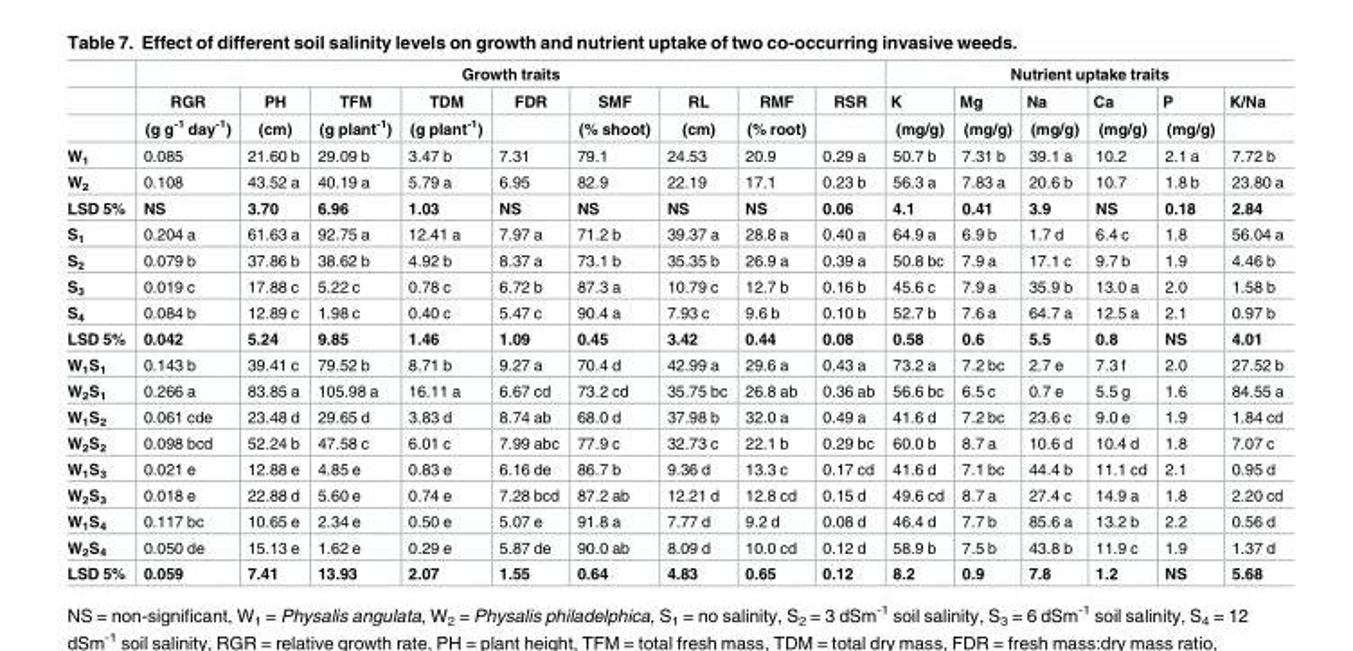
<table><thead><tr><td rowspan="3"></td><td colspan="9">Growth traits</td><td colspan="6">Nutrient uptake traits</td></tr><tr><td rowspan="2">RGR (g g<sup>-1</sup> day<sup>-1</sup>)</td><td rowspan="2">PH (cm)</td><td rowspan="2">TFM (g plant<sup>-1</sup>)</td><td rowspan="2">TDM (g plant<sup>-1</sup>)</td><td rowspan="2">FDR</td><td rowspan="2">SMF (% shoot)</td><td rowspan="2">RL (cm)</td><td rowspan="2">RMF (% root)</td><td rowspan="2">RSR</td><td rowspan="2">K (mg/g)</td><td rowspan="2">Mg (mg/g)</td><td rowspan="2">Na (mg/g)</td><td rowspan="2">Ca (mg/g)</td><td rowspan="2">P (mg/g)</td><td rowspan="2">K/Na</td></tr><tr></tr></thead><tbody><tr><td>W<sub>1</sub></td><td>0.085</td><td>21.60 b</td><td>29.09 b</td><td>3.47 b</td><td>7.31</td><td>79.1</td><td>24.53</td><td>20.9</td><td>0.29 a</td><td>50.7 b</td><td>7.31 b</td><td>39.1 a</td><td>10.2</td><td>2.1 a</td><td>7.72 b</td></tr><tr><td>W<sub>2</sub></td><td>0.108</td><td>43.52 a</td><td>40.19 a</td><td>5.79 a</td><td>6.95</td><td>82.9</td><td>22.19</td><td>17.1</td><td>0.23 b</td><td>56.3 a</td><td>7.83 a</td><td>20.6 b</td><td>10.7</td><td>1.8 b</td><td>23.80 a</td></tr><tr><td>LSD 5%</td><td>NS</td><td>3.70</td><td>6.96</td><td>1.03</td><td>NS</td><td>NS</td><td>NS</td><td>NS</td><td>0.06</td><td>4.1</td><td>0.41</td><td>3.9</td><td>NS</td><td>0.18</td><td>2.84</td></tr><tr><td>S<sub>1</sub></td><td>0.204 a</td><td>61.63 a</td><td>92.75 a</td><td>12.41 a</td><td>7.97 a</td><td>71.2 b</td><td>39.37 a</td><td>28.8 a</td><td>0.40 a</td><td>64.9 a</td><td>6.9 b</td><td>1.7 d</td><td>6.4 c</td><td>1.8</td><td>56.04 a</td></tr><tr><td>S<sub>2</sub></td><td>0.079 b</td><td>37.86 b</td><td>38.62 b</td><td>4.92 b</td><td>8.37 a</td><td>73.1 b</td><td>35.35 b</td><td>26.9 a</td><td>0.39 a</td><td>50.8 bc</td><td>7.9 a</td><td>17.1 c</td><td>9.7 b</td><td>1.9</td><td>4.46 b</td></tr><tr><td>S<sub>3</sub></td><td>0.019 c</td><td>17.88 c</td><td>5.22 c</td><td>0.78 c</td><td>6.72 b</td><td>87.3 a</td><td>10.79 c</td><td>12.7 b</td><td>0.16 b</td><td>45.6 c</td><td>7.9 a</td><td>35.9 b</td><td>13.0 a</td><td>2.0</td><td>1.58 b</td></tr><tr><td>S<sub>4</sub></td><td>0.084 b</td><td>12.89 c</td><td>1.98 c</td><td>0.40 c</td><td>5.47 c</td><td>90.4 a</td><td>7.93 c</td><td>9.6 b</td><td>0.10 b</td><td>52.7 b</td><td>7.6 a</td><td>64.7 a</td><td>12.5 a</td><td>2.1</td><td>0.97 b</td></tr><tr><td>LSD 5%</td><td>0.042</td><td>5.24</td><td>9.85</td><td>1.46</td><td>1.09</td><td>0.45</td><td>3.42</td><td>0.44</td><td>0.08</td><td>0.58</td><td>0.6</td><td>5.5</td><td>0.8</td><td>NS</td><td>4.01</td></tr><tr><td>W<sub>1</sub>S<sub>1</sub></td><td>0.143 b</td><td>39.41 c</td><td>79.52 b</td><td>8.71 b</td><td>9.27 a</td><td>70.4 d</td><td>42.99 a</td><td>29.6 a</td><td>0.43 a</td><td>73.2 a</td><td>7.2 bc</td><td>2.7 e</td><td>7.3 f</td><td>2.0</td><td>27.52 b</td></tr><tr><td>W<sub>2</sub>S<sub>1</sub></td><td>0.266 a</td><td>83.85 a</td><td>105.98 a</td><td>16.11 a</td><td>6.67 cd</td><td>73.2 cd</td><td>35.75 bc</td><td>26.8 ab</td><td>0.36 ab</td><td>56.6 bc</td><td>6.5 c</td><td>0.7 e</td><td>5.5 g</td><td>1.6</td><td>84.55 a</td></tr><tr><td>W<sub>1</sub>S<sub>2</sub></td><td>0.061 cde</td><td>23.48 d</td><td>29.65 d</td><td>3.83 d</td><td>8.74 ab</td><td>68.0 d</td><td>37.98 b</td><td>32.0 a</td><td>0.49 a</td><td>41.6 d</td><td>7.2 bc</td><td>23.6 c</td><td>9.0 e</td><td>1.9</td><td>1.84 cd</td></tr><tr><td>W<sub>2</sub>S<sub>2</sub></td><td>0.098 bcd</td><td>52.24 b</td><td>47.58 c</td><td>6.01 c</td><td>7.99 abc</td><td>77.9 c</td><td>32.73 c</td><td>22.1 b</td><td>0.29 bc</td><td>60.0 b</td><td>8.7 a</td><td>10.6 d</td><td>10.4 d</td><td>1.8</td><td>7.07 c</td></tr><tr><td>W<sub>1</sub>S<sub>3</sub></td><td>0.021 e</td><td>12.88 e</td><td>4.85 e</td><td>0.83 e</td><td>6.16 de</td><td>86.7 b</td><td>9.36 d</td><td>13.3 c</td><td>0.17 cd</td><td>41.6 d</td><td>7.1 bc</td><td>44.4 b</td><td>11.1 cd</td><td>2.1</td><td>0.95 d</td></tr><tr><td>W<sub>2</sub>S<sub>3</sub></td><td>0.018 e</td><td>22.88 d</td><td>5.60 e</td><td>0.74 e</td><td>7.28 bcd</td><td>87.2 ab</td><td>12.21 d</td><td>12.8 cd</td><td>0.15 d</td><td>49.6 cd</td><td>8.7 a</td><td>27.4 c</td><td>14.9 a</td><td>1.8</td><td>2.20 cd</td></tr><tr><td>W<sub>1</sub>S<sub>4</sub></td><td>0.117 bc</td><td>10.65 e</td><td>2.34 e</td><td>0.50 e</td><td>5.07 e</td><td>91.8 a</td><td>7.77 d</td><td>9.2 d</td><td>0.08 d</td><td>46.4 d</td><td>7.7 b</td><td>85.6 a</td><td>13.2 b</td><td>2.2</td><td>0.56 d</td></tr><tr><td>W<sub>2</sub>S<sub>4</sub></td><td>0.050 de</td><td>15.13 e</td><td>1.62 e</td><td>0.29 e</td><td>5.87 de</td><td>90.0 ab</td><td>8.09 d</td><td>10.0 cd</td><td>0.12 d</td><td>58.9 b</td><td>7.5 b</td><td>43.8 b</td><td>11.9 c</td><td>1.9</td><td>1.37 d</td></tr><tr><td>LSD 5%</td><td>0.059</td><td>7.41</td><td>13.93</td><td>2.07</td><td>1.55</td><td>0.64</td><td>4.83</td><td>0.65</td><td>0.12</td><td>8.2</td><td>0.9</td><td>7.8</td><td>1.2</td><td>NS</td><td>5.68</td></tr></tbody></table>